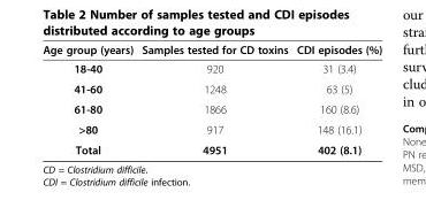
<table><thead><tr><td>Age group (years)</td><td>Samples tested for CD toxins</td><td>CDI episodes (%)</td></tr></thead><tbody><tr><td>18-40</td><td>920</td><td>31 (3.4)</td></tr><tr><td>41-60</td><td>1248</td><td>63 (5)</td></tr><tr><td>61-80</td><td>1866</td><td>160 (8.6)</td></tr><tr><td>&gt;80</td><td>917</td><td>148 (16.1)</td></tr><tr><td>Total</td><td>4951</td><td>402 (8.1)</td></tr></tbody></table>